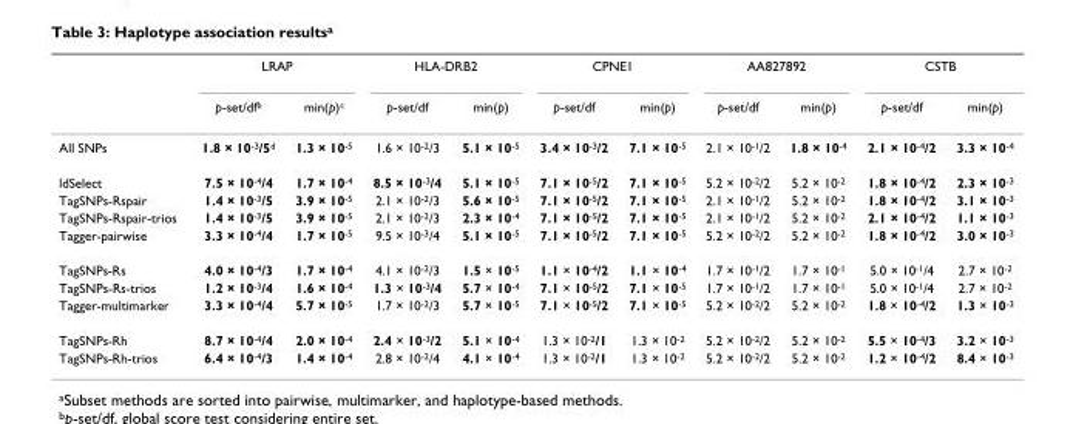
<table><thead><tr><td rowspan="2"></td><td colspan="2">LRAP</td><td colspan="2">HLA-DRB2</td><td colspan="2">CPNE1</td><td colspan="2">AA827892</td><td colspan="2">CSTB</td></tr><tr><td>p-set/df<sup>b</sup></td><td>min(p)<sup>c</sup></td><td>p-set/df</td><td>min(p)</td><td>p-set/df</td><td>min(p)</td><td>p-set/df</td><td>min(p)</td><td>p-set/df</td><td>min(p)</td></tr></thead><tbody><tr><td>All SNPs</td><td>1.8 × 10<sup>-3</sup>/5<sup>d</sup></td><td>1.3 × 10<sup>-5</sup></td><td>1.6 × 10<sup>-2</sup>/3</td><td>5.1 × 10<sup>-5</sup></td><td>3.4 × 10<sup>-3</sup>/2</td><td>7.1 × 10<sup>-5</sup></td><td>2.1 × 10<sup>-1</sup>/2</td><td>1.8 × 10<sup>-4</sup></td><td>2.1 × 10<sup>-4</sup>/2</td><td>3.3 × 10<sup>-4</sup></td></tr><tr><td>ldSelect</td><td>7.5 × 10<sup>-4</sup>/4</td><td>1.7 × 10<sup>-4</sup></td><td>8.5 × 10<sup>-3</sup>/4</td><td>5.1 × 10<sup>-5</sup></td><td>7.1 × 10<sup>-5</sup>/2</td><td>7.1 × 10<sup>-5</sup></td><td>5.2 × 10<sup>-2</sup>/2</td><td>5.2 × 10<sup>-2</sup></td><td>1.8 × 10<sup>-4</sup>/2</td><td>2.3 × 10<sup>-3</sup></td></tr><tr><td>TagSNPs-Rspair</td><td>1.4 × 10<sup>-3</sup>/5</td><td>3.9 × 10<sup>-5</sup></td><td>2.1 × 10<sup>-2</sup>/3</td><td>5.6 × 10<sup>-5</sup></td><td>7.1 × 10<sup>-5</sup>/2</td><td>7.1 × 10<sup>-5</sup></td><td>2.1 × 10<sup>-1</sup>/2</td><td>5.2 × 10<sup>-2</sup></td><td>1.8 × 10<sup>-4</sup>/2</td><td>3.1 × 10<sup>-3</sup></td></tr><tr><td>TagSNPs-Rspair-trios</td><td>1.4 × 10<sup>-3</sup>/5</td><td>3.9 × 10<sup>-5</sup></td><td>2.1 × 10<sup>-2</sup>/3</td><td>2.3 × 10<sup>-4</sup></td><td>7.1 × 10<sup>-5</sup>/2</td><td>7.1 × 10<sup>-5</sup></td><td>2.1 × 10<sup>-1</sup>/2</td><td>5.2 × 10<sup>-2</sup></td><td>2.1 × 10<sup>-4</sup>/2</td><td>1.1 × 10<sup>-3</sup></td></tr><tr><td>Tagger-pairwise</td><td>3.3 × 10<sup>-4</sup>/4</td><td>1.7 × 10<sup>-5</sup></td><td>9.5 × 10<sup>-3</sup>/4</td><td>5.1 × 10<sup>-5</sup></td><td>7.1 × 10<sup>-5</sup>/2</td><td>7.1 × 10<sup>-5</sup></td><td>5.2 × 10<sup>-2</sup>/2</td><td>5.2 × 10<sup>-2</sup></td><td>1.8 × 10<sup>-4</sup>/2</td><td>3.0 × 10<sup>-3</sup></td></tr><tr><td>TagSNPs-Rs</td><td>4.0 × 10<sup>-4</sup>/3</td><td>1.7 × 10<sup>-4</sup></td><td>4.1 × 10<sup>-2</sup>/3</td><td>1.5 × 10<sup>-5</sup></td><td>1.1 × 10<sup>-4</sup>/2</td><td>1.1 × 10<sup>-4</sup></td><td>1.7 × 10<sup>-1</sup>/2</td><td>1.7 × 10<sup>-1</sup></td><td>5.0 × 10<sup>-1</sup>/4</td><td>2.7 × 10<sup>-2</sup></td></tr><tr><td>TagSNPs-Rs-trios</td><td>1.2 × 10<sup>-3</sup>/4</td><td>1.6 × 10<sup>-4</sup></td><td>1.3 × 10<sup>-3</sup>/4</td><td>5.7 × 10<sup>-4</sup></td><td>7.1 × 10<sup>-5</sup>/2</td><td>7.1 × 10<sup>-5</sup></td><td>1.7 × 10<sup>-1</sup>/2</td><td>1.7 × 10<sup>-1</sup></td><td>5.0 × 10<sup>-1</sup>/4</td><td>2.7 × 10<sup>-2</sup></td></tr><tr><td>Tagger-multimarker</td><td>3.3 × 10<sup>-4</sup>/4</td><td>5.7 × 10<sup>-5</sup></td><td>1.7 × 10<sup>-2</sup>/3</td><td>5.7 × 10<sup>-5</sup></td><td>7.1 × 10<sup>-5</sup>/2</td><td>7.1 × 10<sup>-5</sup></td><td>5.2 × 10<sup>-2</sup>/2</td><td>5.2 × 10<sup>-2</sup></td><td>1.8 × 10<sup>-4</sup>/2</td><td>1.3 × 10<sup>-3</sup></td></tr><tr><td>TagSNPs-Rh</td><td>8.7 × 10<sup>-4</sup>/4</td><td>2.0 × 10<sup>-4</sup></td><td>2.4 × 10<sup>-3</sup>/2</td><td>5.1 × 10<sup>-4</sup></td><td>1.3 × 10<sup>-2</sup>/1</td><td>1.3 × 10<sup>-2</sup></td><td>5.2 × 10<sup>-2</sup>/2</td><td>5.2 × 10<sup>-2</sup></td><td>5.5 × 10<sup>-4</sup>/3</td><td>3.2 × 10<sup>-3</sup></td></tr><tr><td>TagSNPs-Rh-trios</td><td>6.4 × 10<sup>-4</sup>/3</td><td>1.4 × 10<sup>-4</sup></td><td>2.8 × 10<sup>-2</sup>/4</td><td>4.1 × 10<sup>-4</sup></td><td>1.3 × 10<sup>-2</sup>/1</td><td>1.3 × 10<sup>-2</sup></td><td>5.2 × 10<sup>-2</sup>/2</td><td>5.2 × 10<sup>-2</sup></td><td>1.2 × 10<sup>-4</sup>/2</td><td>8.4 × 10<sup>-3</sup></td></tr></tbody></table>